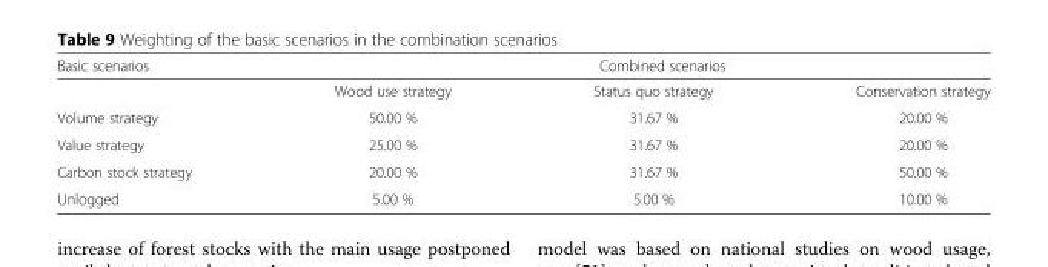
<table><thead><tr><td rowspan="2">Basic scenarios</td><td colspan="3">Combined scenarios</td></tr><tr><td>Wood use strategy</td><td>Status quo strategy</td><td>Conservation strategy</td></tr></thead><tbody><tr><td>Volume strategy</td><td>50.00 %</td><td>31.67 %</td><td>20.00 %</td></tr><tr><td>Value strategy</td><td>25.00 %</td><td>31.67 %</td><td>20.00 %</td></tr><tr><td>Carbon stock strategy</td><td>20.00 %</td><td>31.67 %</td><td>50.00 %</td></tr><tr><td>Unlogged</td><td>5.00 %</td><td>5.00 %</td><td>10.00 %</td></tr></tbody></table>